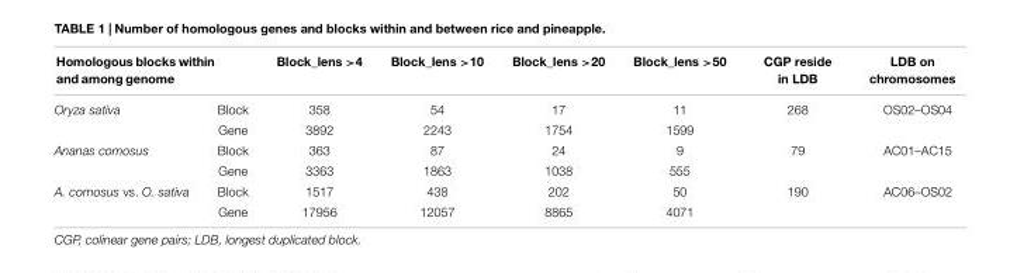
<table><thead><tr><td colspan="2">Homologous blocks within and among genome</td><td rowspan="2">Block_lens &gt;4 358</td><td rowspan="2">Block_lens &gt;10 54</td><td rowspan="2">Block_lens &gt;20 17</td><td rowspan="2">Block_lens &gt;50 11</td><td rowspan="2">CGP reside in LDB 268</td><td rowspan="2">LDB on chromosomes OS02–OS04</td></tr><tr><td>Oryza sativa</td><td>Block</td></tr></thead><tbody><tr><td></td><td>Gene</td><td>3892</td><td>2243</td><td>1754</td><td>1599</td><td></td><td></td></tr><tr><td rowspan="2">Ananas comosus</td><td>Block</td><td>363</td><td>87</td><td>24</td><td>9</td><td>79</td><td>AC01–AC15</td></tr><tr><td>Gene</td><td>3363</td><td>1863</td><td>1038</td><td>555</td><td></td><td></td></tr><tr><td rowspan="2">A. comosus vs. O. sativa</td><td>Block</td><td>1517</td><td>438</td><td>202</td><td>50</td><td>190</td><td>AC06–OS02</td></tr><tr><td>Gene</td><td>17956</td><td>12057</td><td>8865</td><td>4071</td><td></td><td></td></tr></tbody></table>